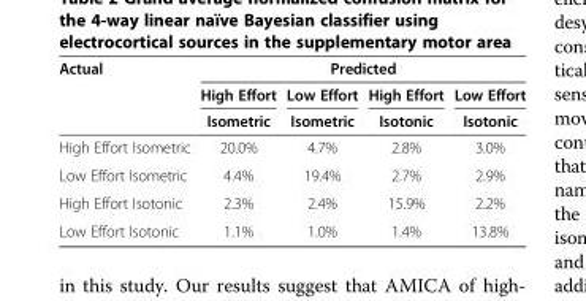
<table><thead><tr><td rowspan="3">Actual</td><td colspan="4">Predicted</td></tr><tr><td rowspan="2">High Effort Isometric</td><td rowspan="2">Low Effort Isometric</td><td rowspan="2">High Effort Isotonic</td><td rowspan="2">Low Effort Isotonic</td></tr><tr></tr></thead><tbody><tr><td>High Effort Isometric</td><td>20.0%</td><td>4.7%</td><td>2.8%</td><td>3.0%</td></tr><tr><td>Low Effort Isometric</td><td>4.4%</td><td>19.4%</td><td>2.7%</td><td>2.9%</td></tr><tr><td>High Effort Isotonic</td><td>2.3%</td><td>2.4%</td><td>15.9%</td><td>2.2%</td></tr><tr><td>Low Effort Isotonic</td><td>1.1%</td><td>1.0%</td><td>1.4%</td><td>13.8%</td></tr></tbody></table>